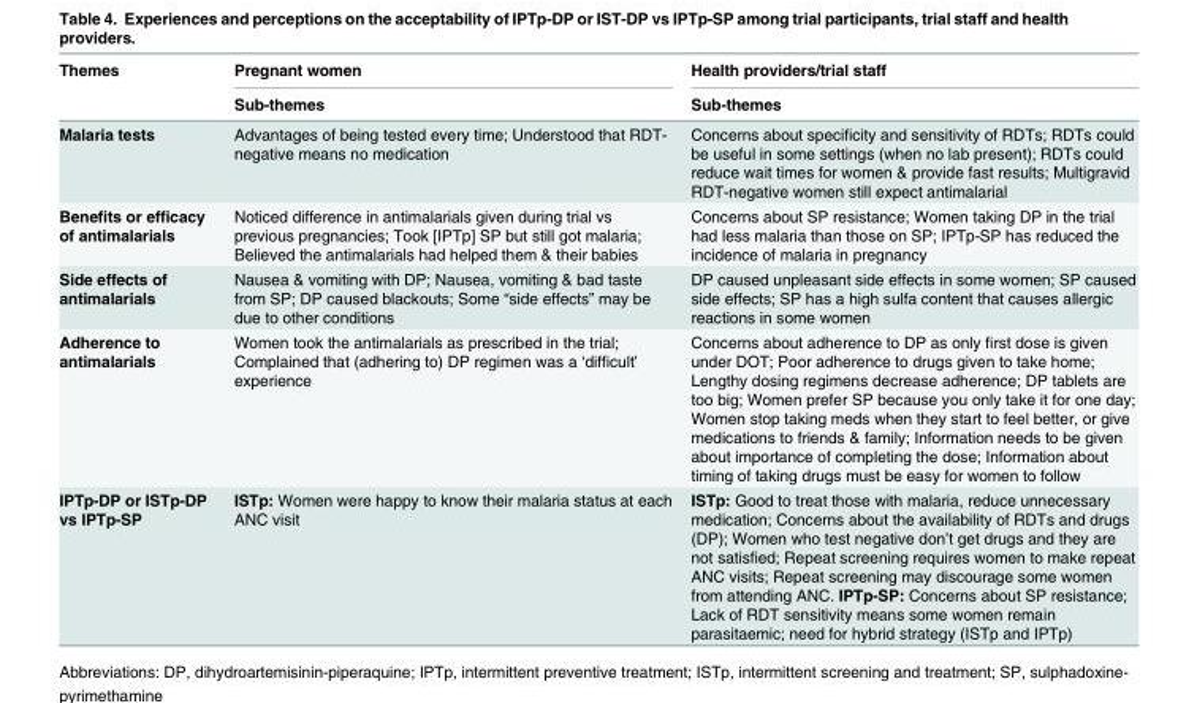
<table><thead><tr><td rowspan="2">Themes</td><td rowspan="2">Pregnant women Sub-themes</td><td rowspan="2">Health providers/trial staff Sub-themes</td></tr><tr></tr></thead><tbody><tr><td>Malaria tests</td><td>Advantages of being tested every time; Understood that RDT- negative means no medication</td><td>Concerns about specificity and sensitivity of RDTs; RDTs could be useful in some settings (when no lab present); RDTs could reduce wait times for women &amp; provide fast results; Multigravid RDT-negative women still expect antimalarial</td></tr><tr><td>Benefits or efficacy of antimalarials</td><td>Noticed difference in antimalarials given during trial vs previous pregnancies; Took [IPTp] SP but still got malaria; Believed the antimalarials had helped them &amp; their babies</td><td>Concerns about SP resistance; Women taking DP in the trial had less malaria than those on SP; IPTp-SP has reduced the incidence of malaria in pregnancy</td></tr><tr><td>Side effects of antimalarials</td><td>Nausea &amp; vomiting with DP; Nausea, vomiting &amp; bad taste from SP; DP caused blackouts; Some “side effects” may be due to other conditions</td><td>DP caused unpleasant side effects in some women; SP caused side effects; SP has a high sulfa content that causes allergic reactions in some women</td></tr><tr><td>Adherence to antimalarials</td><td>Women took the antimalarials as prescribed in the trial; Complained that (adhering to) DP regimen was a ‘difficult’ experience</td><td>Concerns about adherence to DP as only first dose is given under DOT; Poor adherence to drugs given to take home; Lengthy dosing regimens decrease adherence; DP tablets are too big; Women prefer SP because you only take it for one day; Women stop taking meds when they start to feel better, or give medications to friends &amp; family; Information needs to be given about importance of completing the dose; Information about timing of taking drugs must be easy for women to follow</td></tr><tr><td>IPTp-DP or ISTp-DP vs IPTp-SP</td><td>ISTp: Women were happy to know their malaria status at each ANC visit</td><td>ISTp: Good to treat those with malaria, reduce unnecessary medication; Concerns about the availability of RDTs and drugs (DP); Women who test negative don’t get drugs and they are not satisfied; Repeat screening requires women to make repeat ANC visits; Repeat screening may discourage some women from attending ANC. IPTp-SP: Concerns about SP resistance; Lack of RDT sensitivity means some women remain parasitaemic; need for hybrid strategy (ISTp and IPTp)</td></tr></tbody></table>